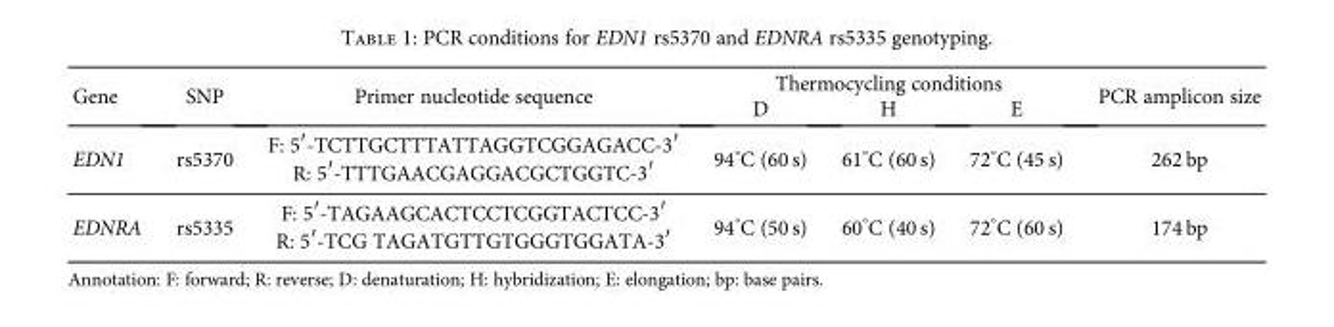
<table><thead><tr><td rowspan="2">Gene</td><td rowspan="2">SNP</td><td rowspan="2">Primer nucleotide sequence</td><td colspan="3">Thermocycling conditions</td><td rowspan="2">PCR amplicon size</td></tr><tr><td>D</td><td>H</td><td>E</td></tr></thead><tbody><tr><td>EDN1</td><td>rs5370</td><td>F: 5′-TCTTGCTTTATTAGGTCGGAGACC-3′ R: 5′-TTTGAACGAGGACGCTGGTC-3′</td><td>94°С (60 s)</td><td>61°С (60 s)</td><td>72°С (45 s)</td><td>262 bp</td></tr><tr><td>EDNRA</td><td>rs5335</td><td>F: 5′-TAGAAGCACTCCTCGGTACTCC-3′ R: 5′-TCG TAGATGTTGTGGGTGGATA-3′</td><td>94°С (50 s)</td><td>60°С (40 s)</td><td>72°С (60 s)</td><td>174 bp</td></tr></tbody></table>